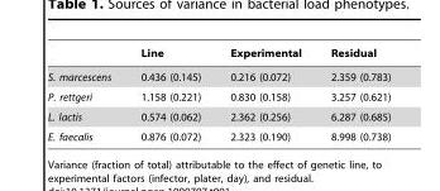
<table><thead><tr><td></td><td>Line</td><td>Experimental</td><td>Residual</td></tr></thead><tbody><tr><td>S. marcescens</td><td>0.436 (0.145)</td><td>0.216 (0.072)</td><td>2.359 (0.783)</td></tr><tr><td>P. rettgeri</td><td>1.158 (0.221)</td><td>0.830 (0.158)</td><td>3.257 (0.621)</td></tr><tr><td>L. lactis</td><td>0.574 (0.062)</td><td>2.362 (0.256)</td><td>6.287 (0.685)</td></tr><tr><td>E. faecalis</td><td>0.876 (0.072)</td><td>2.323 (0.190)</td><td>8.998 (0.738)</td></tr></tbody></table>